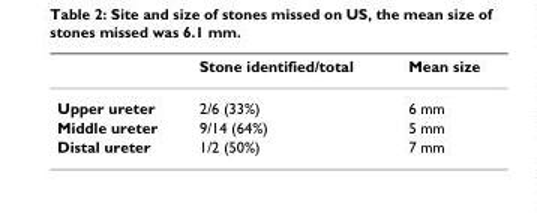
<table><thead><tr><td></td><td>Stone identified/total</td><td>Mean size</td></tr></thead><tbody><tr><td>Upper ureter</td><td>2/6 (33%)</td><td>6 mm</td></tr><tr><td>Middle ureter</td><td>9/14 (64%)</td><td>5 mm</td></tr><tr><td>Distal ureter</td><td>1/2 (50%)</td><td>7 mm</td></tr></tbody></table>